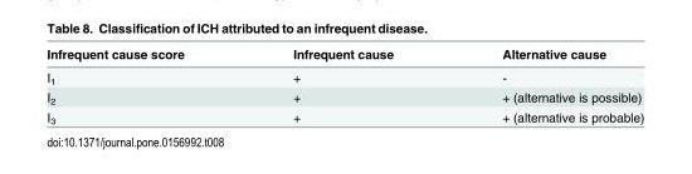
<table><thead><tr><td>Infrequent cause score</td><td>Infrequent cause</td><td>Alternative cause</td></tr></thead><tbody><tr><td>I<sub>1</sub></td><td>+</td><td>-</td></tr><tr><td>I<sub>2</sub></td><td>+</td><td>+ (alternative is possible)</td></tr><tr><td>I<sub>3</sub></td><td>+</td><td>+ (alternative is probable)</td></tr></tbody></table>